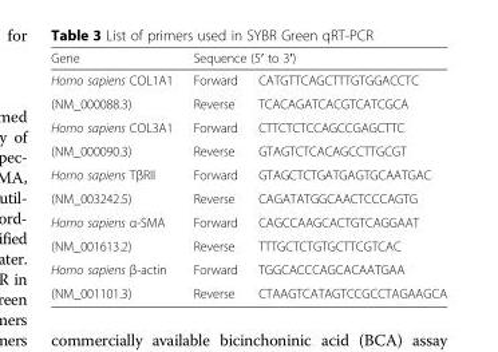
<table><thead><tr><td rowspan="2">Gene Homo sapiens COL1A1</td><td colspan="2">Sequence (5′ to 3′)</td></tr><tr><td>Forward</td><td>CATGTTCAGCTTTGTGGACCTC</td></tr></thead><tbody><tr><td>(NM_000088.3)</td><td>Reverse</td><td>TCACAGATCACGTCATCGCA</td></tr><tr><td>Homo sapiens COL3A1</td><td>Forward</td><td>CTTCTCTCCAGCCGAGCTTC</td></tr><tr><td>(NM_000090.3)</td><td>Reverse</td><td>GTAGTCTCACAGCCTTGCGT</td></tr><tr><td>Homo sapiens TβRII</td><td>Forward</td><td>GTAGCTCTGATGAGTGCAATGAC</td></tr><tr><td>(NM_003242.5)</td><td>Reverse</td><td>CAGATATGGCAACTCCCAGTG</td></tr><tr><td>Homo sapiens α-SMA</td><td>Forward</td><td>CAGCCAAGCACTGTCAGGAAT</td></tr><tr><td>(NM_001613.2)</td><td>Reverse</td><td>TTTGCTCTGTGCTTCGTCAC</td></tr><tr><td>Homo sapiens β-actin</td><td>Forward</td><td>TGGCACCCAGCACAATGAA</td></tr><tr><td>(NM_001101.3)</td><td>Reverse</td><td>CTAAGTCATAGTCCGCCTAGAAGCA</td></tr></tbody></table>